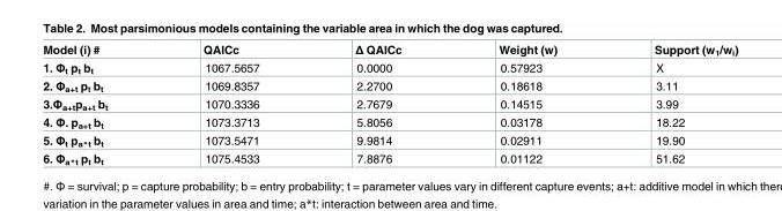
<table><thead><tr><td>Model (i) #</td><td>QAICc</td><td>Δ QAICc</td><td>Weight (w)</td><td>Support (w<sub>1</sub>/w<sub>i</sub>)</td></tr></thead><tbody><tr><td>1. Φ<sub>t</sub> p<sub>t</sub> b<sub>t</sub></td><td>1067.5657</td><td>0.0000</td><td>0.57923</td><td>X</td></tr><tr><td>2. Φ<sub>a+t</sub> p<sub>t</sub> b<sub>t</sub></td><td>1069.8357</td><td>2.2700</td><td>0.18618</td><td>3.11</td></tr><tr><td>3.Φ<sub>a+t</sub>p<sub>a+t</sub> b<sub>t</sub></td><td>1070.3336</td><td>2.7679</td><td>0.14515</td><td>3.99</td></tr><tr><td>4. Φ. p<sub>a+t</sub> b<sub>t</sub></td><td>1073.3713</td><td>5.8056</td><td>0.03178</td><td>18.22</td></tr><tr><td>5. Φ<sub>t</sub> p<sub>a*t</sub> b<sub>t</sub></td><td>1073.5471</td><td>9.9814</td><td>0.02911</td><td>19.90</td></tr><tr><td>6. Φ<sub>a*t</sub> p<sub>t</sub> b<sub>t</sub></td><td>1075.4533</td><td>7.8876</td><td>0.01122</td><td>51.62</td></tr></tbody></table>